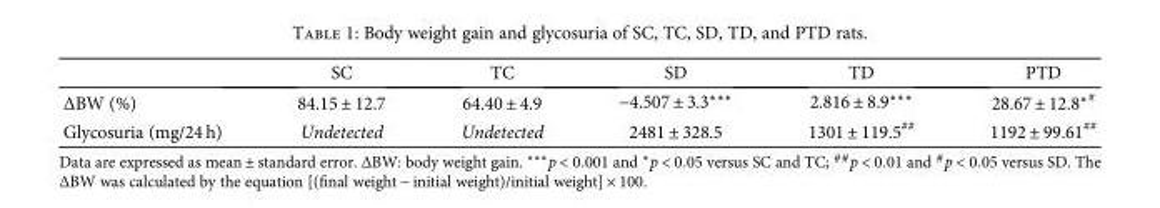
<table><thead><tr><td></td><td>SC</td><td>TC</td><td>SD</td><td>TD</td><td>PTD</td></tr></thead><tbody><tr><td>ΔBW (%)</td><td>84.15 ± 12.7</td><td>64.40 ± 4.9</td><td>−4.507 ± 3.3∗∗∗</td><td>2.816 ± 8.9∗∗∗</td><td>28.67 ± 12.8<sup>∗#</sup></td></tr><tr><td>Glycosuria (mg/24 h)</td><td>Undetected</td><td>Undetected</td><td>2481 ± 328.5</td><td>1301 ± 119.5<sup>##</sup></td><td>1192 ± 99.61<sup>##</sup></td></tr></tbody></table>